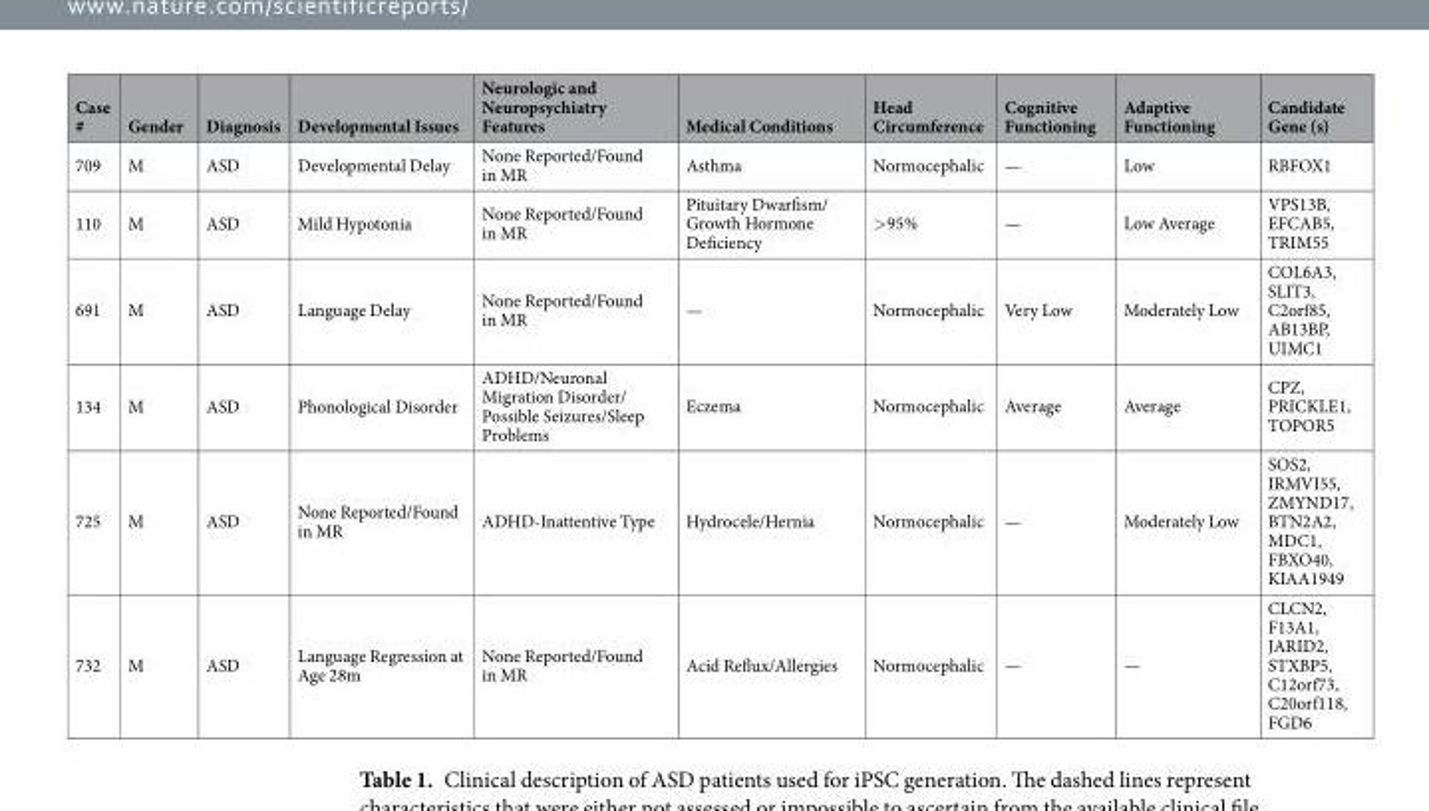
<table><thead><tr><td>Case #</td><td>Gender</td><td>Diagnosis</td><td>Developmental Issues</td><td>Neurologic and Neuropsychiatry Features</td><td>Medical Conditions</td><td>Head Circumference</td><td>Cognitive Functioning</td><td>Adaptive Functioning</td><td>Candidate Gene (s)</td></tr></thead><tbody><tr><td>709</td><td>M</td><td>ASD</td><td>Developmental Delay</td><td>None Reported/Found in MR</td><td>Asthma</td><td>Normocephalic</td><td>—</td><td>Low</td><td>RBFOX1</td></tr><tr><td>110</td><td>M</td><td>ASD</td><td>Mild Hypotonia</td><td>None Reported/Found in MR</td><td>Pituitary Dwarfism/ Growth Hormone Deficiency</td><td>&gt;95%</td><td>—</td><td>Low Average</td><td>VPS13B, EFCAB5, TRIM55</td></tr><tr><td>691</td><td>M</td><td>ASD</td><td>Language Delay</td><td>None Reported/Found in MR</td><td>—</td><td>Normocephalic</td><td>Very Low</td><td>Moderately Low</td><td>COL6A3, SLIT3, C2orf85, AB13BP, UIMC1</td></tr><tr><td>134</td><td>M</td><td>ASD</td><td>Phonological Disorder</td><td>ADHD/Neuronal Migration Disorder/ Possible Seizures/Sleep Problems</td><td>Eczema</td><td>Normocephalic</td><td>Average</td><td>Average</td><td>CPZ, PRICKLE1, TOPOR5</td></tr><tr><td>725</td><td>M</td><td>ASD</td><td>None Reported/Found in MR</td><td>ADHD-Inattentive Type</td><td>Hydrocele/Hernia</td><td>Normocephalic</td><td>—</td><td>Moderately Low</td><td>SOS2, IRMVI55, ZMYND17, BTN2A2, MDC1, FBXO40, KIAA1949</td></tr><tr><td>732</td><td>M</td><td>ASD</td><td>Language Regression at Age 28m</td><td>None Reported/Found in MR</td><td>Acid Reflux/Allergies</td><td>Normocephalic</td><td>—</td><td>—</td><td>CLCN2, F13A1, JARID2, STXBP5, C12orf73, C20orf118, FGD6</td></tr></tbody></table>